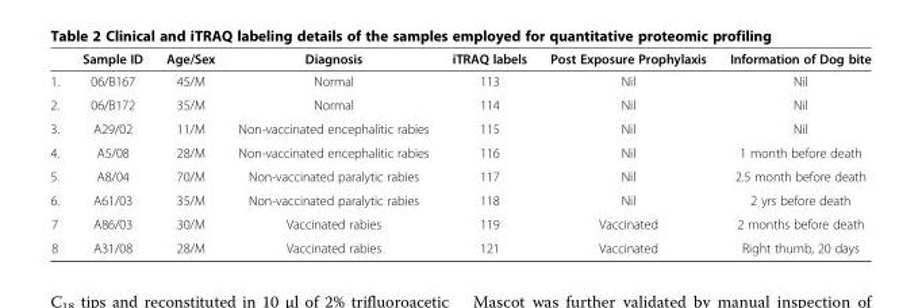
<table><thead><tr><td></td><td>Sample ID</td><td>Age/Sex</td><td>Diagnosis</td><td>iTRAQ labels</td><td>Post Exposure Prophylaxis</td><td>Information of Dog bite</td></tr></thead><tbody><tr><td>1.</td><td>06/B167</td><td>45/M</td><td>Normal</td><td>113</td><td>Nil</td><td>Nil</td></tr><tr><td>2.</td><td>06/B172</td><td>35/M</td><td>Normal</td><td>114</td><td>Nil</td><td>Nil</td></tr><tr><td>3.</td><td>A29/02</td><td>11/M</td><td>Non-vaccinated encephalitic rabies</td><td>115</td><td>Nil</td><td>Nil</td></tr><tr><td>4.</td><td>A5/08</td><td>28/M</td><td>Non-vaccinated encephalitic rabies</td><td>116</td><td>Nil</td><td>1 month before death</td></tr><tr><td>5.</td><td>A8/04</td><td>70/M</td><td>Non-vaccinated paralytic rabies</td><td>117</td><td>Nil</td><td>2.5 month before death</td></tr><tr><td>6.</td><td>A61/03</td><td>35/M</td><td>Non-vaccinated paralytic rabies</td><td>118</td><td>Nil</td><td>2 yrs before death</td></tr><tr><td>7</td><td>A86/03</td><td>30/M</td><td>Vaccinated rabies</td><td>119</td><td>Vaccinated</td><td>2 months before death</td></tr><tr><td>8</td><td>A31/08</td><td>28/M</td><td>Vaccinated rabies</td><td>121</td><td>Vaccinated</td><td>Right thumb, 20 days</td></tr></tbody></table>